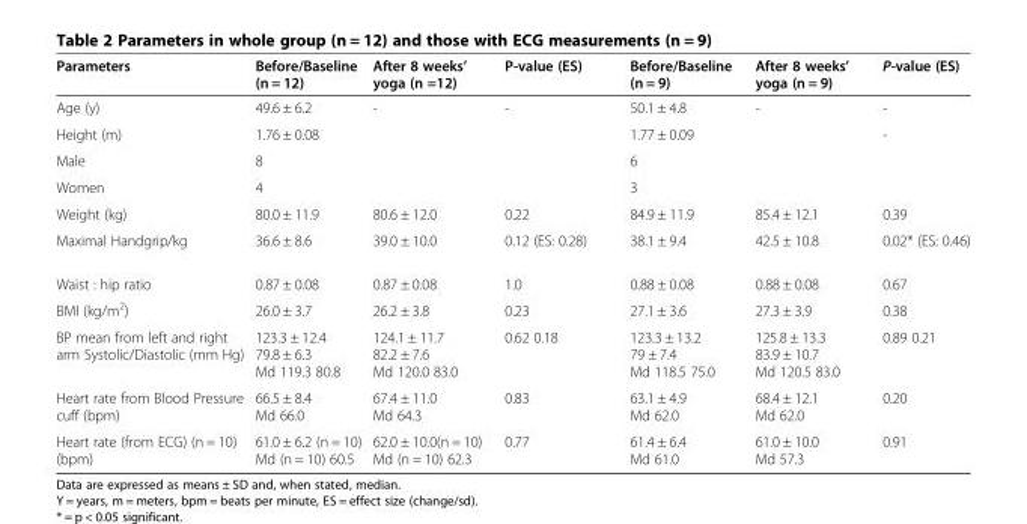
<table><thead><tr><td>Parameters</td><td>Before/Baseline (n = 12)</td><td>After 8 weeks’ yoga (n =12)</td><td>P-value (ES)</td><td>Before/Baseline (n = 9)</td><td>After 8 weeks’ yoga (n = 9)</td><td>P-value (ES)</td></tr></thead><tbody><tr><td>Age (y)</td><td>49.6 ± 6.2</td><td>-</td><td>-</td><td>50.1 ± 4.8</td><td>-</td><td>-</td></tr><tr><td>Height (m)</td><td>1.76 ± 0.08</td><td></td><td></td><td>1.77 ± 0.09</td><td></td><td>-</td></tr><tr><td>Male</td><td>8</td><td></td><td></td><td>6</td><td></td><td></td></tr><tr><td>Women</td><td>4</td><td></td><td></td><td>3</td><td></td><td></td></tr><tr><td>Weight (kg)</td><td>80.0 ± 11.9</td><td>80.6 ± 12.0</td><td>0.22</td><td>84.9 ± 11.9</td><td>85.4 ± 12.1</td><td>0.39</td></tr><tr><td>Maximal Handgrip/kg</td><td>36.6 ± 8.6</td><td>39.0 ± 10.0</td><td>0.12 (ES: 0.28)</td><td>38.1 ± 9.4</td><td>42.5 ± 10.8</td><td>0.02* (ES: 0.46)</td></tr><tr><td>Waist : hip ratio</td><td>0.87 ± 0.08</td><td>0.87 ± 0.08</td><td>1.0</td><td>0.88 ± 0.08</td><td>0.88 ± 0.08</td><td>0.67</td></tr><tr><td>BMI (kg/m<sup>2</sup>)</td><td>26.0 ± 3.7</td><td>26.2 ± 3.8</td><td>0.23</td><td>27.1 ± 3.6</td><td>27.3 ± 3.9</td><td>0.38</td></tr><tr><td>BP mean from left and right arm Systolic/Diastolic (mm Hg)</td><td>123.3 ± 12.4 79.8 ± 6.3 Md 119.3 80.8</td><td>124.1 ± 11.7 82.2 ± 7.6 Md 120.0 83.0</td><td>0.62 0.18</td><td>123.3 ± 13.2 79 ± 7.4 Md 118.5 75.0</td><td>125.8 ± 13.3 83.9 ± 10.7 Md 120.5 83.0</td><td>0.89 0.21</td></tr><tr><td>Heart rate from Blood Pressure cuff (bpm)</td><td>66.5 ± 8.4 Md 66.0</td><td>67.4 ± 11.0 Md 64.3</td><td>0.83</td><td>63.1 ± 4.9 Md 62.0</td><td>68.4 ± 12.1 Md 62.0</td><td>0.20</td></tr><tr><td>Heart rate (from ECG) (n = 10) (bpm)</td><td>61.0 ± 6.2 (n = 10) Md (n = 10) 60.5</td><td>62.0 ± 10.0(n = 10) Md (n = 10) 62.3</td><td>0.77</td><td>61.4 ± 6.4 Md 61.0</td><td>61.0 ± 10.0 Md 57.3</td><td>0.91</td></tr></tbody></table>